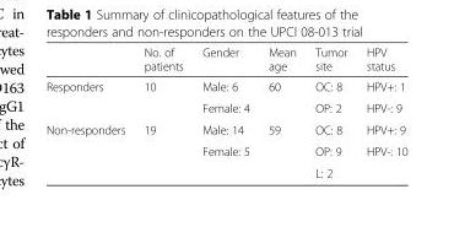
<table><thead><tr><td></td><td>No. of patients</td><td>Gender</td><td>Mean age</td><td>Tumor site</td><td>HPV status</td></tr></thead><tbody><tr><td rowspan="2">Responders</td><td>10</td><td>Male: 6</td><td>60</td><td>OC: 8</td><td>HPV+: 1</td></tr><tr><td></td><td>Female: 4</td><td></td><td>OP: 2</td><td>HPV-: 9</td></tr><tr><td rowspan="3">Non-responders</td><td>19</td><td>Male: 14</td><td>59</td><td>OC: 8</td><td>HPV+: 9</td></tr><tr><td></td><td>Female: 5</td><td></td><td>OP: 9</td><td>HPV-: 10</td></tr><tr><td></td><td></td><td></td><td>L: 2</td><td></td></tr></tbody></table>